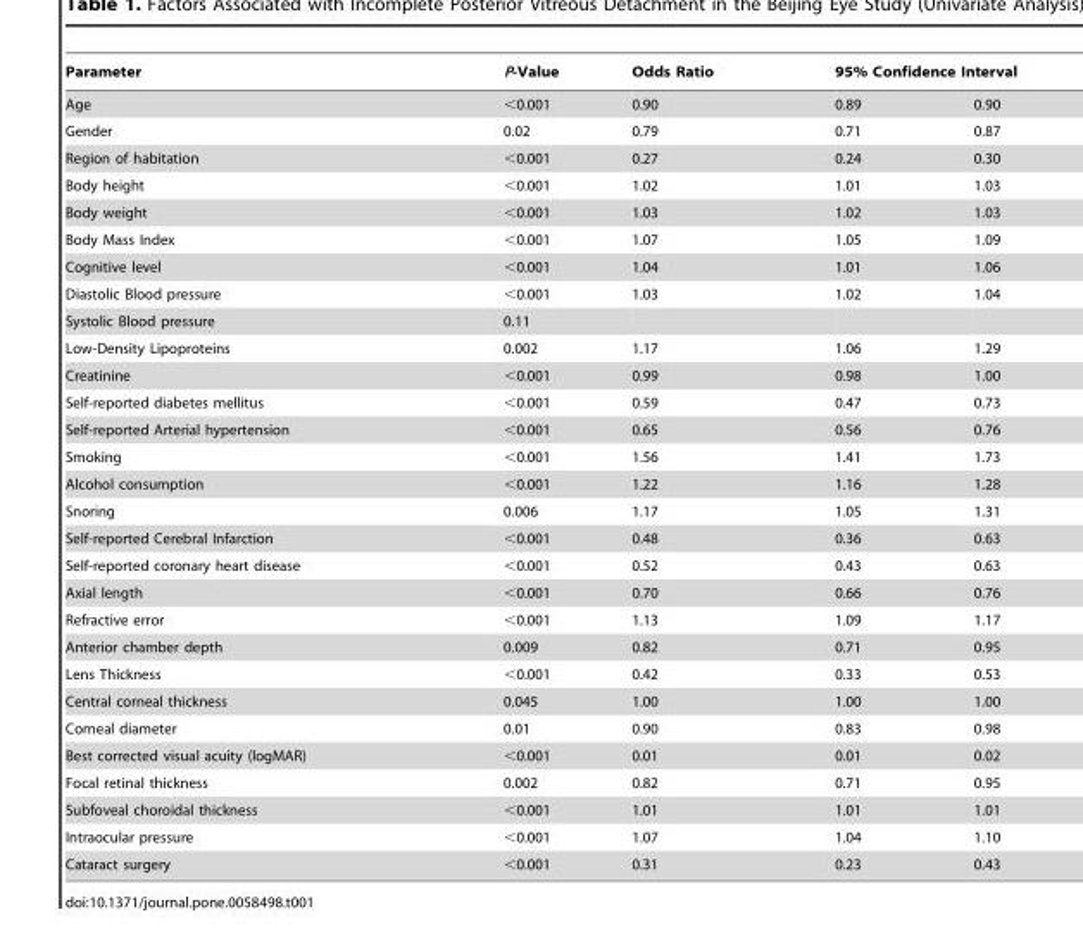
<table><thead><tr><td rowspan="2">Parameter Age</td><td rowspan="2">P-Value &lt;0.001</td><td rowspan="2">Odds Ratio 0.90</td><td colspan="2">95% Confidence Interval</td></tr><tr><td>0.89</td><td>0.90</td></tr></thead><tbody><tr><td>Gender</td><td>0.02</td><td>0.79</td><td>0.71</td><td>0.87</td></tr><tr><td>Region of habitation</td><td>&lt;0.001</td><td>0.27</td><td>0.24</td><td>0.30</td></tr><tr><td>Body height</td><td>&lt;0.001</td><td>1.02</td><td>1.01</td><td>1.03</td></tr><tr><td>Body weight</td><td>&lt;0.001</td><td>1.03</td><td>1.02</td><td>1.03</td></tr><tr><td>Body Mass Index</td><td>&lt;0.001</td><td>1.07</td><td>1.05</td><td>1.09</td></tr><tr><td>Cognitive level</td><td>&lt;0.001</td><td>1.04</td><td>1.01</td><td>1.06</td></tr><tr><td>Diastolic Blood pressure</td><td>&lt;0.001</td><td>1.03</td><td>1.02</td><td>1.04</td></tr><tr><td>Systolic Blood pressure</td><td>0.11</td><td></td><td></td><td></td></tr><tr><td>Low-Density Lipoproteins</td><td>0.002</td><td>1.17</td><td>1.06</td><td>1.29</td></tr><tr><td>Creatinine</td><td>&lt;0.001</td><td>0.99</td><td>0.98</td><td>1.00</td></tr><tr><td>Self-reported diabetes mellitus</td><td>&lt;0.001</td><td>0.59</td><td>0.47</td><td>0.73</td></tr><tr><td>Self-reported Arterial hypertension</td><td>&lt;0.001</td><td>0.65</td><td>0.56</td><td>0.76</td></tr><tr><td>Smoking</td><td>&lt;0.001</td><td>1.56</td><td>1.41</td><td>1.73</td></tr><tr><td>Alcohol consumption</td><td>&lt;0.001</td><td>1.22</td><td>1.16</td><td>1.28</td></tr><tr><td>Snoring</td><td>0.006</td><td>1.17</td><td>1.05</td><td>1.31</td></tr><tr><td>Self-reported Cerebral Infarction</td><td>&lt;0.001</td><td>0.48</td><td>0.36</td><td>0.63</td></tr><tr><td>Self-reported coronary heart disease</td><td>&lt;0.001</td><td>0.52</td><td>0.43</td><td>0.63</td></tr><tr><td>Axial length</td><td>&lt;0.001</td><td>0.70</td><td>0.66</td><td>0.76</td></tr><tr><td>Refractive error</td><td>&lt;0.001</td><td>1.13</td><td>1.09</td><td>1.17</td></tr><tr><td>Anterior chamber depth</td><td>0.009</td><td>0.82</td><td>0.71</td><td>0.95</td></tr><tr><td>Lens Thickness</td><td>&lt;0.001</td><td>0.42</td><td>0.33</td><td>0.53</td></tr><tr><td>Central corneal thickness</td><td>0.045</td><td>1.00</td><td>1.00</td><td>1.00</td></tr><tr><td>Corneal diameter</td><td>0.01</td><td>0.90</td><td>0.83</td><td>0.98</td></tr><tr><td>Best corrected visual acuity (logMAR)</td><td>&lt;0.001</td><td>0.01</td><td>0.01</td><td>0.02</td></tr><tr><td>Focal retinal thickness</td><td>0.002</td><td>0.82</td><td>0.71</td><td>0.95</td></tr><tr><td>Subfoveal choroidal thickness</td><td>&lt;0.001</td><td>1.01</td><td>1.01</td><td>1.01</td></tr><tr><td>Intraocular pressure</td><td>&lt;0.001</td><td>1.07</td><td>1.04</td><td>1.10</td></tr><tr><td>Cataract surgery</td><td>&lt;0.001</td><td>0.31</td><td>0.23</td><td>0.43</td></tr></tbody></table>